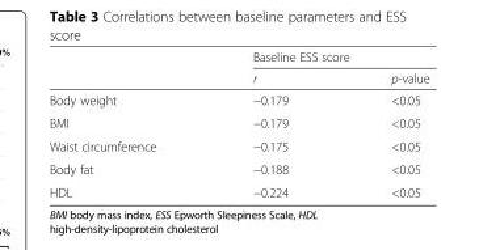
<table><thead><tr><td rowspan="2"></td><td colspan="2">Baseline ESS score</td></tr><tr><td>r</td><td>p-value</td></tr></thead><tbody><tr><td>Body weight</td><td>−0.179</td><td>&lt;0.05</td></tr><tr><td>BMI</td><td>−0.179</td><td>&lt;0.05</td></tr><tr><td>Waist circumference</td><td>−0.175</td><td>&lt;0.05</td></tr><tr><td>Body fat</td><td>−0.188</td><td>&lt;0.05</td></tr><tr><td>HDL</td><td>−0.224</td><td>&lt;0.05</td></tr></tbody></table>